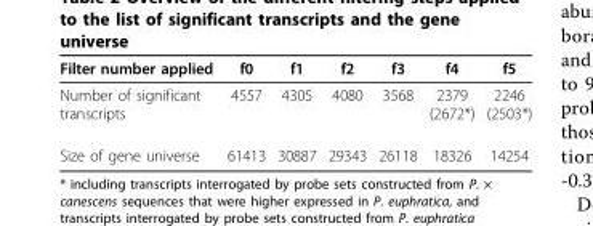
<table><thead><tr><td>Filter number applied</td><td>f0</td><td>f1</td><td>f2</td><td>f3</td><td>f4</td><td>f5</td></tr></thead><tbody><tr><td>Number of significant transcripts</td><td>4557</td><td>4305</td><td>4080</td><td>3568</td><td>2379 (2672*)</td><td>2246 (2503*)</td></tr><tr><td>Size of gene universe</td><td>61413</td><td>30887</td><td>29343</td><td>26118</td><td>18326</td><td>14254</td></tr></tbody></table>